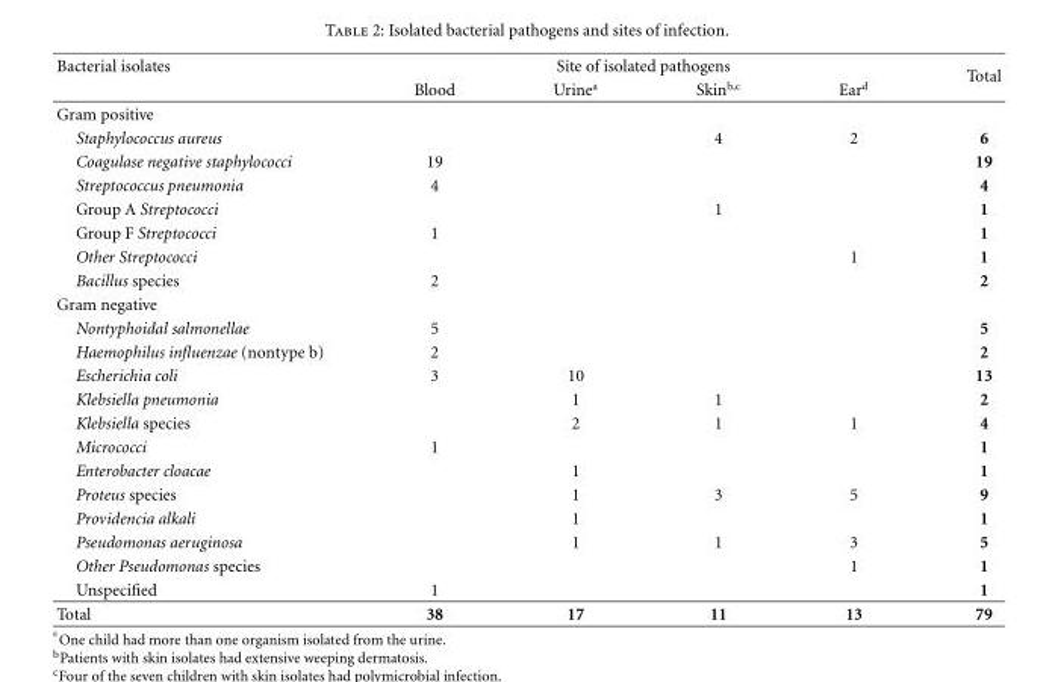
<table><thead><tr><td rowspan="2">Bacterial isolates</td><td colspan="4">Site of isolated pathogens</td><td rowspan="2">Total</td></tr><tr><td>Blood</td><td>Urine<sup>a</sup></td><td>Skin<sup>b,c</sup></td><td>Ear<sup>d</sup></td></tr></thead><tbody><tr><td colspan="6">Gram positive</td></tr><tr><td>Staphylococcus aureus</td><td></td><td></td><td>4</td><td>2</td><td>6</td></tr><tr><td>Coagulase negative staphylococci</td><td>19</td><td></td><td></td><td></td><td>19</td></tr><tr><td>Streptococcus pneumonia</td><td>4</td><td></td><td></td><td></td><td>4</td></tr><tr><td>Group A Streptococci</td><td></td><td></td><td>1</td><td></td><td>1</td></tr><tr><td>Group F Streptococci</td><td>1</td><td></td><td></td><td></td><td>1</td></tr><tr><td>Other Streptococci</td><td></td><td></td><td></td><td>1</td><td>1</td></tr><tr><td>Bacillus species</td><td>2</td><td></td><td></td><td></td><td>2</td></tr><tr><td colspan="6">Gram negative</td></tr><tr><td>Nontyphoidal salmonellae</td><td>5</td><td></td><td></td><td></td><td>5</td></tr><tr><td>Haemophilus influenzae (nontype b)</td><td>2</td><td></td><td></td><td></td><td>2</td></tr><tr><td>Escherichia coli</td><td>3</td><td>10</td><td></td><td></td><td>13</td></tr><tr><td>Klebsiella pneumonia</td><td></td><td>1</td><td>1</td><td></td><td>2</td></tr><tr><td>Klebsiella species</td><td></td><td>2</td><td>1</td><td>1</td><td>4</td></tr><tr><td>Micrococci</td><td>1</td><td></td><td></td><td></td><td>1</td></tr><tr><td>Enterobacter cloacae</td><td></td><td>1</td><td></td><td></td><td>1</td></tr><tr><td>Proteus species</td><td></td><td>1</td><td>3</td><td>5</td><td>9</td></tr><tr><td>Providencia alkali</td><td></td><td>1</td><td></td><td></td><td>1</td></tr><tr><td>Pseudomonas aeruginosa</td><td></td><td>1</td><td>1</td><td>3</td><td>5</td></tr><tr><td>Other Pseudomonas species</td><td></td><td></td><td></td><td>1</td><td>1</td></tr><tr><td>Unspecified</td><td>1</td><td></td><td></td><td></td><td>1</td></tr><tr><td>Total</td><td>38</td><td>17</td><td>11</td><td>13</td><td>79</td></tr></tbody></table>